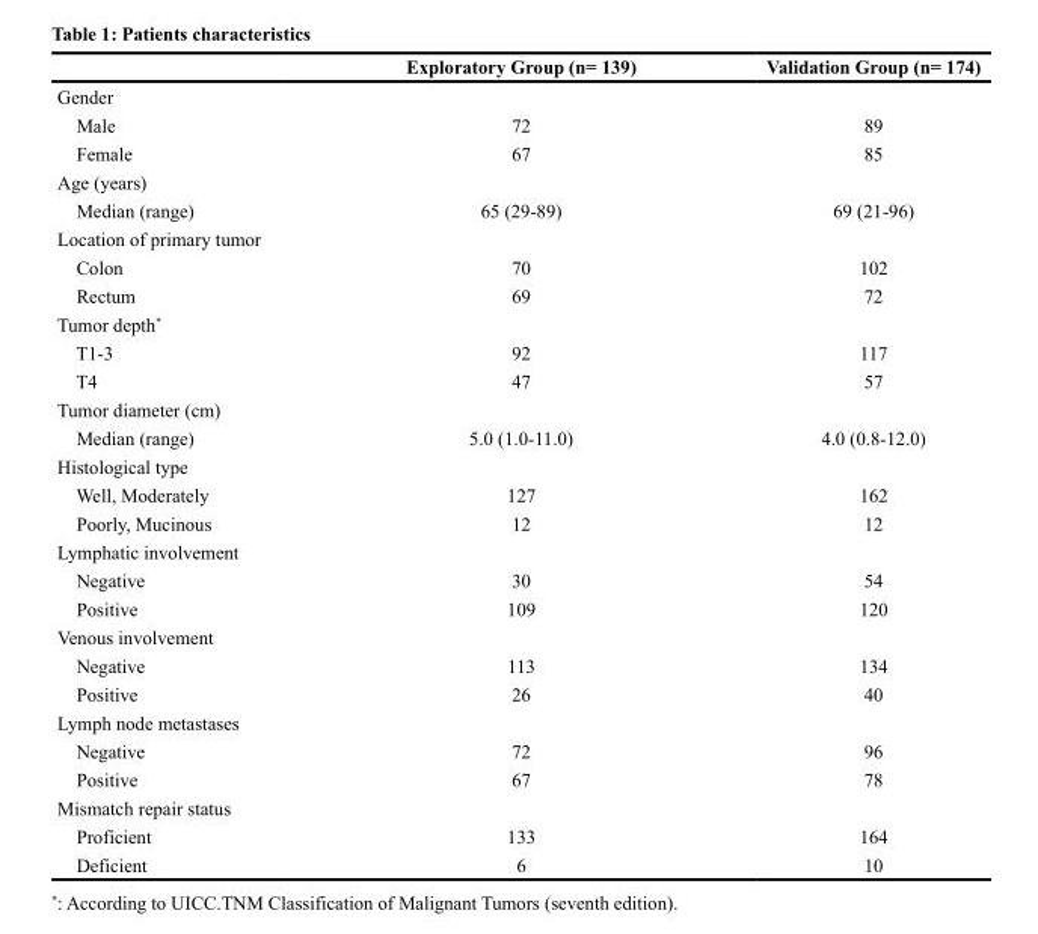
<table><thead><tr><td></td><td>Exploratory Group (n= 139)</td><td>Validation Group (n= 174)</td></tr></thead><tbody><tr><td colspan="3">Gender</td></tr><tr><td>Male</td><td>72</td><td>89</td></tr><tr><td>Female</td><td>67</td><td>85</td></tr><tr><td colspan="3">Age (years)</td></tr><tr><td>Median (range)</td><td>65 (29-89)</td><td>69 (21-96)</td></tr><tr><td colspan="3">Location of primary tumor</td></tr><tr><td>Colon</td><td>70</td><td>102</td></tr><tr><td>Rectum</td><td>69</td><td>72</td></tr><tr><td colspan="3">Tumor depth*</td></tr><tr><td>T1-3</td><td>92</td><td>117</td></tr><tr><td>T4</td><td>47</td><td>57</td></tr><tr><td colspan="3">Tumor diameter (cm)</td></tr><tr><td>Median (range)</td><td>5.0 (1.0-11.0)</td><td>4.0 (0.8-12.0)</td></tr><tr><td colspan="3">Histological type</td></tr><tr><td>Well, Moderately</td><td>127</td><td>162</td></tr><tr><td>Poorly, Mucinous</td><td>12</td><td>12</td></tr><tr><td colspan="3">Lymphatic involvement</td></tr><tr><td>Negative</td><td>30</td><td>54</td></tr><tr><td>Positive</td><td>109</td><td>120</td></tr><tr><td colspan="3">Venous involvement</td></tr><tr><td>Negative</td><td>113</td><td>134</td></tr><tr><td>Positive</td><td>26</td><td>40</td></tr><tr><td colspan="3">Lymph node metastases</td></tr><tr><td>Negative</td><td>72</td><td>96</td></tr><tr><td>Positive</td><td>67</td><td>78</td></tr><tr><td colspan="3">Mismatch repair status</td></tr><tr><td>Proficient</td><td>133</td><td>164</td></tr><tr><td>Deficient</td><td>6</td><td>10</td></tr></tbody></table>